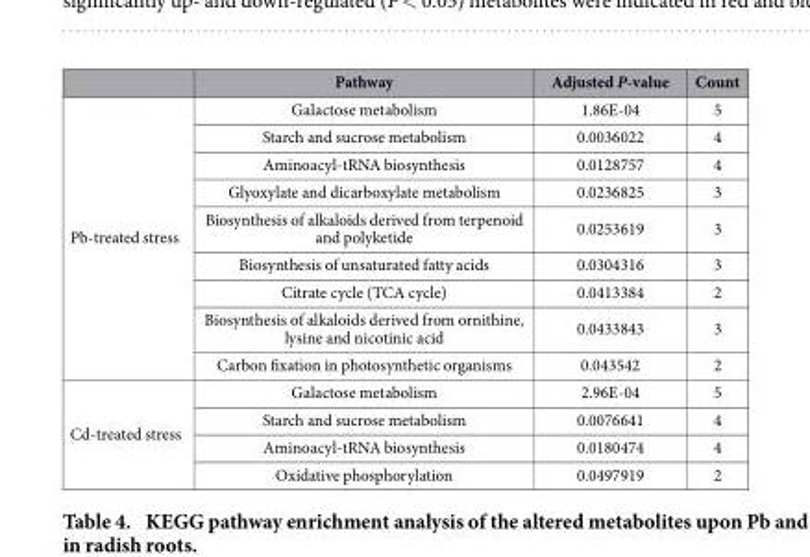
<table><thead><tr><td></td><td>Pathway</td><td>Adjusted P-value</td><td>Count</td></tr></thead><tbody><tr><td rowspan="9">Pb-treated stress</td><td>Galactose metabolism</td><td>1.86E-04</td><td>5</td></tr><tr><td>Starch and sucrose metabolism</td><td>0.0036022</td><td>4</td></tr><tr><td>Aminoacyl-tRNA biosynthesis</td><td>0.0128757</td><td>4</td></tr><tr><td>Glyoxylate and dicarboxylate metabolism</td><td>0.0236825</td><td>3</td></tr><tr><td>Biosynthesis of alkaloids derived from terpenoid and polyketide</td><td>0.0253619</td><td>3</td></tr><tr><td>Biosynthesis of unsaturated fatty acids</td><td>0.0304316</td><td>3</td></tr><tr><td>Citrate cycle (TCA cycle)</td><td>0.0413384</td><td>2</td></tr><tr><td>Biosynthesis of alkaloids derived from ornithine, lysine and nicotinic acid</td><td>0.0433843</td><td>3</td></tr><tr><td>Carbon fixation in photosynthetic organisms</td><td>0.043542</td><td>2</td></tr><tr><td rowspan="4">Cd-treated stress</td><td>Galactose metabolism</td><td>2.96E-04</td><td>5</td></tr><tr><td>Starch and sucrose metabolism</td><td>0.0076641</td><td>4</td></tr><tr><td>Aminoacyl-tRNA biosynthesis</td><td>0.0180474</td><td>4</td></tr><tr><td>Oxidative phosphorylation</td><td>0.0497919</td><td>2</td></tr></tbody></table>